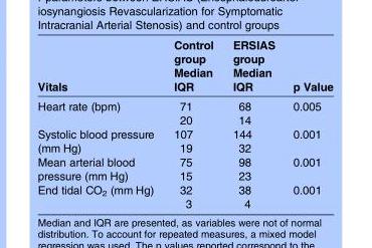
<table><thead><tr><td rowspan="2">Vitals</td><td rowspan="2">Control group Median IQR</td><td rowspan="2">ERSIAS group Median IQR</td><td rowspan="2">p Value</td></tr><tr></tr></thead><tbody><tr><td>Heart rate (bpm)</td><td>71 20</td><td>68 14</td><td>0.005</td></tr><tr><td>Systolic blood pressure (mm Hg)</td><td>107 19</td><td>144 32</td><td>0.001</td></tr><tr><td>Mean arterial blood pressure (mm Hg)</td><td>75 15</td><td>98 23</td><td>0.001</td></tr><tr><td>End tidal CO<sub>2</sub> (mm Hg)</td><td>32 3</td><td>38 4</td><td>0.001</td></tr></tbody></table>